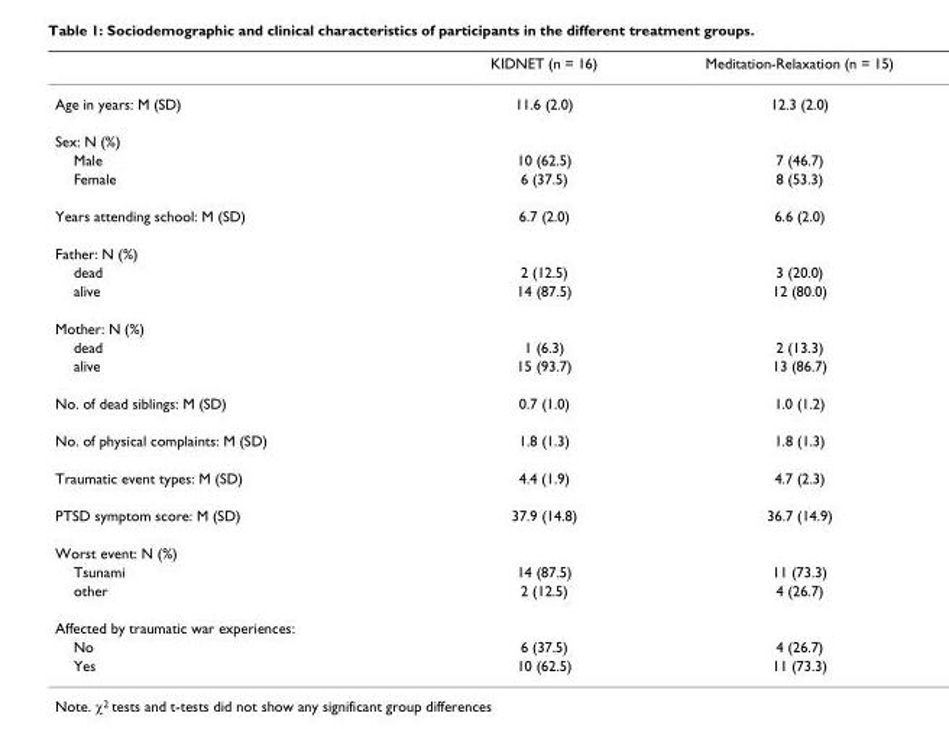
<table><thead><tr><td></td><td>KIDNET (n = 16)</td><td>Meditation-Relaxation (n = 15)</td></tr></thead><tbody><tr><td>Age in years: M (SD)</td><td>11.6 (2.0)</td><td>12.3 (2.0)</td></tr><tr><td colspan="3">Sex: N (%)</td></tr><tr><td>Male</td><td>10 (62.5)</td><td>7 (46.7)</td></tr><tr><td>Female</td><td>6 (37.5)</td><td>8 (53.3)</td></tr><tr><td>Years attending school: M (SD)</td><td>6.7 (2.0)</td><td>6.6 (2.0)</td></tr><tr><td colspan="3">Father: N (%)</td></tr><tr><td>dead</td><td>2 (12.5)</td><td>3 (20.0)</td></tr><tr><td>alive</td><td>14 (87.5)</td><td>12 (80.0)</td></tr><tr><td colspan="3">Mother: N (%)</td></tr><tr><td>dead</td><td>1 (6.3)</td><td>2 (13.3)</td></tr><tr><td>alive</td><td>15 (93.7)</td><td>13 (86.7)</td></tr><tr><td>No. of dead siblings: M (SD)</td><td>0.7 (1.0)</td><td>1.0 (1.2)</td></tr><tr><td>No. of physical complaints: M (SD)</td><td>1.8 (1.3)</td><td>1.8 (1.3)</td></tr><tr><td>Traumatic event types: M (SD)</td><td>4.4 (1.9)</td><td>4.7 (2.3)</td></tr><tr><td>PTSD symptom score: M (SD)</td><td>37.9 (14.8)</td><td>36.7 (14.9)</td></tr><tr><td colspan="3">Worst event: N (%)</td></tr><tr><td>Tsunami</td><td>14 (87.5)</td><td>11 (73.3)</td></tr><tr><td>other</td><td>2 (12.5)</td><td>4 (26.7)</td></tr><tr><td colspan="3">Affected by traumatic war experiences:</td></tr><tr><td>No</td><td>6 (37.5)</td><td>4 (26.7)</td></tr><tr><td>Yes</td><td>10 (62.5)</td><td>11 (73.3)</td></tr></tbody></table>